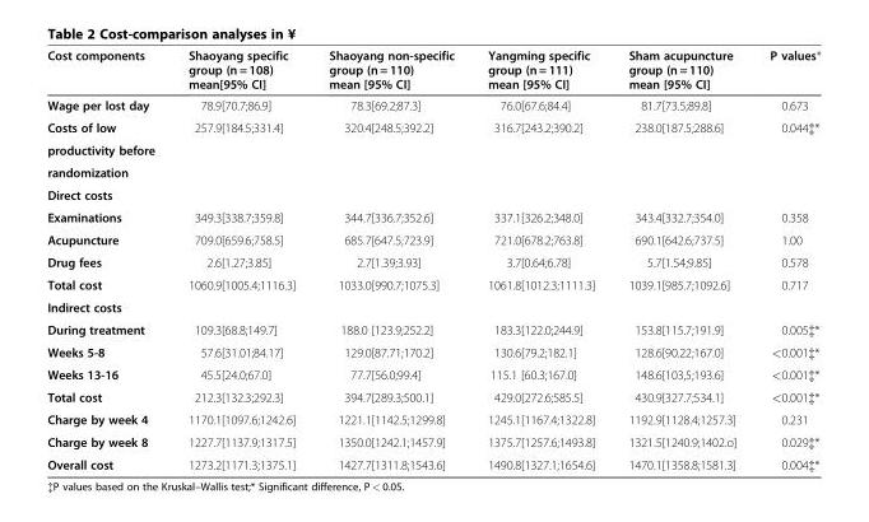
<table><thead><tr><td>Cost components</td><td>Shaoyang specific group (n = 108) mean[95% CI]</td><td>Shaoyang non-specific group (n = 110) mean [95% CI]</td><td>Yangming specific group (n = 111) mean [95% CI]</td><td>Sham acupuncture group (n = 110) mean [95% CI]</td><td>P values*</td></tr></thead><tbody><tr><td>Wage per lost day</td><td>78.9[70.7;86.9]</td><td>78.3[69.2;87.3]</td><td>76.0[67.6;84.4]</td><td>81.7[73.5;89.8]</td><td>0.673</td></tr><tr><td>Costs of low</td><td>257.9[184.5;331.4]</td><td>320.4[248.5;392.2]</td><td>316.7[243.2;390.2]</td><td>238.0[187.5;288.6]</td><td>0.044‡*</td></tr><tr><td colspan="6">productivity before</td></tr><tr><td colspan="6">randomization</td></tr><tr><td colspan="6">Direct costs</td></tr><tr><td>Examinations</td><td>349.3[338.7;359.8]</td><td>344.7[336.7;352.6]</td><td>337.1[326.2;348.0]</td><td>343.4[332.7;354.0]</td><td>0.358</td></tr><tr><td>Acupuncture</td><td>709.0[659.6;758.5]</td><td>685.7[647.5;723.9]</td><td>721.0[678.2;763.8]</td><td>690.1[642.6;737.5]</td><td>1.00</td></tr><tr><td>Drug fees</td><td>2.6[1.27;3.85]</td><td>2.7[1.39;3.93]</td><td>3.7[0.64;6.78]</td><td>5.7[1.54;9.85]</td><td>0.578</td></tr><tr><td>Total cost</td><td>1060.9[1005.4;1116.3]</td><td>1033.0[990.7;1075.3]</td><td>1061.8[1012.3;1111.3]</td><td>1039.1[985.7;1092.6]</td><td>0.717</td></tr><tr><td colspan="6">Indirect costs</td></tr><tr><td>During treatment</td><td>109.3[68.8;149.7]</td><td>188.0 [123.9;252.2]</td><td>183.3[122.0;244.9]</td><td>153.8[115.7;191.9]</td><td>0.005‡*</td></tr><tr><td>Weeks 5-8</td><td>57.6[31.01;84.17]</td><td>129.0[87.71;170.2]</td><td>130.6[79.2;182.1]</td><td>128.6[90.22;167.0]</td><td>&lt;0.001‡*</td></tr><tr><td>Weeks 13-16</td><td>45.5[24.0;67.0]</td><td>77.7[56.0;99.4]</td><td>115.1 [60.3;167.0]</td><td>148.6[103,5;193.6]</td><td>&lt;0.001‡*</td></tr><tr><td>Total cost</td><td>212.3[132.3;292.3]</td><td>394.7[289.3;500.1]</td><td>429.0[272.6;585.5]</td><td>430.9[327.7;534.1]</td><td>&lt;0.001‡*</td></tr><tr><td>Charge by week 4</td><td>1170.1[1097.6;1242.6]</td><td>1221.1[1142.5;1299.8]</td><td>1245.1[1167.4;1322.8]</td><td>1192.9[1128.4;1257.3]</td><td>0.231</td></tr><tr><td>Charge by week 8</td><td>1227.7[1137.9;1317.5]</td><td>1350.0[1242.1;1457.9]</td><td>1375.7[1257.6;1493.8]</td><td>1321.5[1240.9;1402.o]</td><td>0.029‡*</td></tr><tr><td>Overall cost</td><td>1273.2[1171.3;1375.1]</td><td>1427.7[1311.8;1543.6]</td><td>1490.8[1327.1;1654.6]</td><td>1470.1[1358.8;1581.3]</td><td>0.004‡*</td></tr></tbody></table>